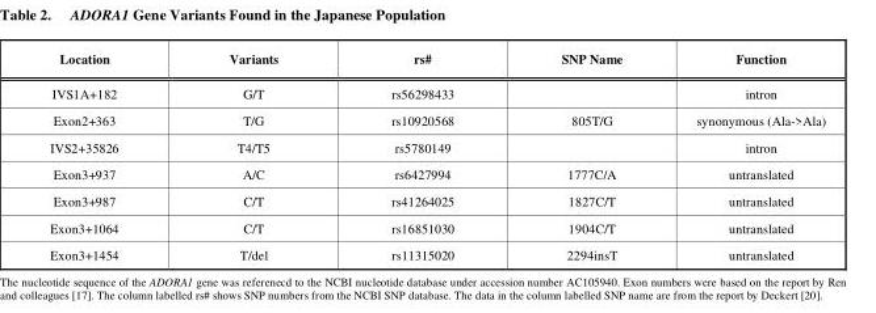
<table><thead><tr><td>Location</td><td>Variants</td><td>rs#</td><td>SNP Name</td><td>Function</td></tr></thead><tbody><tr><td>IVS1A+182</td><td>G/T</td><td>rs56298433</td><td></td><td>intron</td></tr><tr><td>Exon2+363</td><td>T/G</td><td>rs10920568</td><td>805T/G</td><td>synonymous (Ala-&gt;Ala)</td></tr><tr><td>IVS2+35826</td><td>T4/T5</td><td>rs5780149</td><td></td><td>intron</td></tr><tr><td>Exon3+937</td><td>A/C</td><td>rs6427994</td><td>1777C/A</td><td>untranslated</td></tr><tr><td>Exon3+987</td><td>C/T</td><td>rs41264025</td><td>1827C/T</td><td>untranslated</td></tr><tr><td>Exon3+1064</td><td>C/T</td><td>rs16851030</td><td>1904C/T</td><td>untranslated</td></tr><tr><td>Exon3+1454</td><td>T/del</td><td>rs11315020</td><td>2294insT</td><td>untranslated</td></tr></tbody></table>